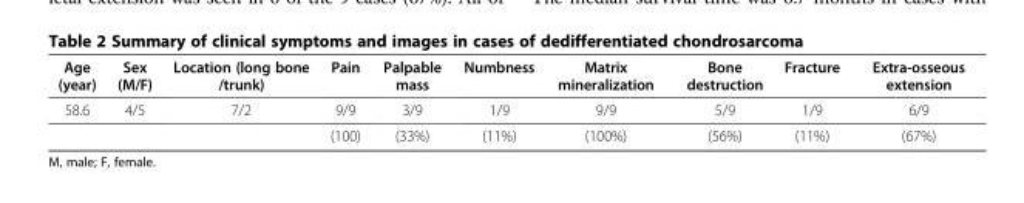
<table><thead><tr><td>Age (year)</td><td>Sex (M/F)</td><td>Location (long bone /trunk)</td><td>Pain</td><td>Palpable mass</td><td>Numbness</td><td>Matrix mineralization</td><td>Bone destruction</td><td>Fracture</td><td>Extra-osseous extension</td></tr></thead><tbody><tr><td rowspan="2">58.6</td><td>4/5</td><td>7/2</td><td>9/9</td><td>3/9</td><td>1/9</td><td>9/9</td><td>5/9</td><td>1/9</td><td>6/9</td></tr><tr><td></td><td></td><td>(100)</td><td>(33%)</td><td>(11%)</td><td>(100%)</td><td>(56%)</td><td>(11%)</td><td>(67%)</td></tr></tbody></table>